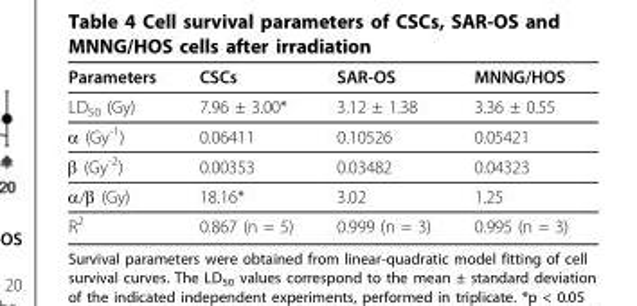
<table><thead><tr><td>Parameters</td><td>CSCs</td><td>SAR-OS</td><td>MNNG/HOS</td></tr></thead><tbody><tr><td>LD<sub>50</sub> (Gy)</td><td>7.96 ± 3.00*</td><td>3.12 ± 1.38</td><td>3.36 ± 0.55</td></tr><tr><td>α (Gy<sup>-1</sup>)</td><td>0.06411</td><td>0.10526</td><td>0.05421</td></tr><tr><td>β (Gy<sup>-2</sup>)</td><td>0.00353</td><td>0.03482</td><td>0.04323</td></tr><tr><td>α/β (Gy)</td><td>18.16*</td><td>3.02</td><td>1.25</td></tr><tr><td>R<sup>2</sup></td><td>0.867 (n = 5)</td><td>0.999 (n = 3)</td><td>0.995 (n = 3)</td></tr></tbody></table>